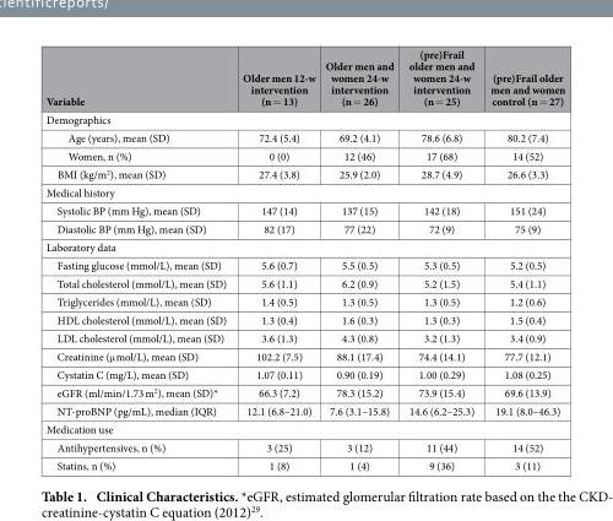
<table><thead><tr><td>Variable</td><td>Older men 12-w intervention (n = 13)</td><td>Older men and women 24-w intervention (n = 26)</td><td>(pre)Frail older men and women 24-w intervention (n = 25)</td><td>(pre)Frail older men and women control (n = 27)</td></tr></thead><tbody><tr><td colspan="5">Demographics</td></tr><tr><td>Age (years), mean (SD)</td><td>72.4 (5.4)</td><td>69.2 (4.1)</td><td>78.6 (6.8)</td><td>80.2 (7.4)</td></tr><tr><td>Women, n (%)</td><td>0 (0)</td><td>12 (46)</td><td>17 (68)</td><td>14 (52)</td></tr><tr><td>BMI (kg/m<sup>2</sup>), mean (SD)</td><td>27.4 (3.8)</td><td>25.9 (2.0)</td><td>28.7 (4.9)</td><td>26.6 (3.3)</td></tr><tr><td colspan="5">Medical history</td></tr><tr><td>Systolic BP (mm Hg), mean (SD)</td><td>147 (14)</td><td>137 (15)</td><td>142 (18)</td><td>151 (24)</td></tr><tr><td>Diastolic BP (mm Hg), mean (SD)</td><td>82 (17)</td><td>77 (22)</td><td>72 (9)</td><td>75 (9)</td></tr><tr><td colspan="5">Laboratory data</td></tr><tr><td>Fasting glucose (mmol/L), mean (SD)</td><td>5.6 (0.7)</td><td>5.5 (0.5)</td><td>5.3 (0.5)</td><td>5.2 (0.5)</td></tr><tr><td>Total cholesterol (mmol/L), mean (SD)</td><td>5.6 (1.1)</td><td>6.2 (0.9)</td><td>5.2 (1.5)</td><td>5.4 (1.1)</td></tr><tr><td>Triglycerides (mmol/L), mean (SD)</td><td>1.4 (0.5)</td><td>1.3 (0.5)</td><td>1.3 (0.5)</td><td>1.2 (0.6)</td></tr><tr><td>HDL cholesterol (mmol/L), mean (SD)</td><td>1.3 (0.4)</td><td>1.6 (0.3)</td><td>1.3 (0.3)</td><td>1.5 (0.4)</td></tr><tr><td>LDL cholesterol (mmol/L), mean (SD)</td><td>3.6 (1.3)</td><td>4.3 (0.8)</td><td>3.2 (1.3)</td><td>3.4 (0.9)</td></tr><tr><td>Creatinine (μ mol/L), mean (SD)</td><td>102.2 (7.5)</td><td>88.1 (17.4)</td><td>74.4 (14.1)</td><td>77.7 (12.1)</td></tr><tr><td>Cystatin C (mg/L), mean (SD)</td><td>1.07 (0.11)</td><td>0.90 (0.19)</td><td>1.00 (0.29)</td><td>1.08 (0.25)</td></tr><tr><td>eGFR (ml/min/1.73 m<sup>2</sup>), mean (SD)*</td><td>66.3 (7.2)</td><td>78.3 (15.2)</td><td>73.9 (15.4)</td><td>69.6 (13.9)</td></tr><tr><td>NT-proBNP (pg/mL), median (IQR)</td><td>12.1 (6.8–21.0)</td><td>7.6 (3.1–15.8)</td><td>14.6 (6.2–25.3)</td><td>19.1 (8.0–46.3)</td></tr><tr><td colspan="5">Medication use</td></tr><tr><td>Antihypertensives, n (%)</td><td>3 (25)</td><td>3 (12)</td><td>11 (44)</td><td>14 (52)</td></tr><tr><td>Statins, n (%)</td><td>1 (8)</td><td>1 (4)</td><td>9 (36)</td><td>3 (11)</td></tr></tbody></table>